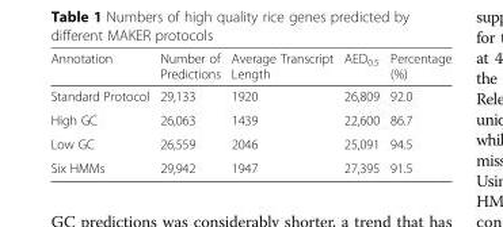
<table><thead><tr><td>Annotation</td><td>Number of Predictions</td><td>Average Transcript Length</td><td>AED<sub>0.5</sub></td><td>Percentage (%)</td></tr></thead><tbody><tr><td>Standard Protocol</td><td>29,133</td><td>1920</td><td>26,809</td><td>92.0</td></tr><tr><td>High GC</td><td>26,063</td><td>1439</td><td>22,600</td><td>86.7</td></tr><tr><td>Low GC</td><td>26,559</td><td>2046</td><td>25,091</td><td>94.5</td></tr><tr><td>Six HMMs</td><td>29,942</td><td>1947</td><td>27,395</td><td>91.5</td></tr></tbody></table>